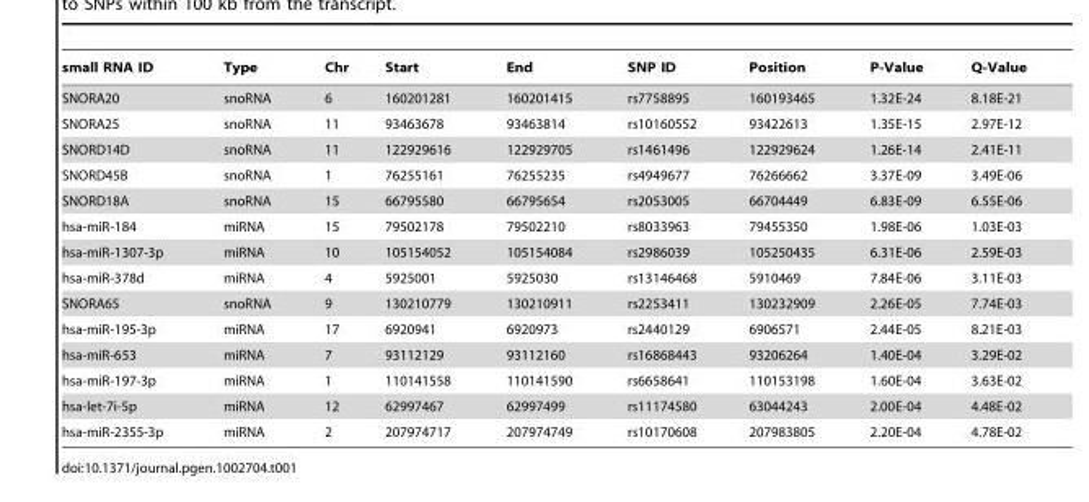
<table><thead><tr><td>small RNA ID</td><td>Type</td><td>Chr</td><td>Start</td><td>End</td><td>SNP ID</td><td>Position</td><td>P-Value</td><td>Q-Value</td></tr></thead><tbody><tr><td>SNORA20</td><td>snoRNA</td><td>6</td><td>160201281</td><td>160201415</td><td>rs7758895</td><td>160193465</td><td>1.32E-24</td><td>8.18E-21</td></tr><tr><td>SNORA25</td><td>snoRNA</td><td>11</td><td>93463678</td><td>93463814</td><td>rs10160552</td><td>93422613</td><td>1.35E-15</td><td>2.97E-12</td></tr><tr><td>SNORD14D</td><td>snoRNA</td><td>11</td><td>122929616</td><td>122929705</td><td>rs1461496</td><td>122929624</td><td>1.26E-14</td><td>2.41E-11</td></tr><tr><td>SNORD45B</td><td>snoRNA</td><td>1</td><td>76255161</td><td>76255235</td><td>rs4949677</td><td>76266662</td><td>3.37E-09</td><td>3.49E-06</td></tr><tr><td>SNORD18A</td><td>snoRNA</td><td>15</td><td>66795580</td><td>66795654</td><td>rs2053005</td><td>66704449</td><td>6.83E-09</td><td>6.55E-06</td></tr><tr><td>hsa-miR-184</td><td>miRNA</td><td>15</td><td>79502178</td><td>79502210</td><td>rs8033963</td><td>79455350</td><td>1.98E-06</td><td>1.03E-03</td></tr><tr><td>hsa-miR-1307-3p</td><td>miRNA</td><td>10</td><td>105154052</td><td>105154084</td><td>rs2986039</td><td>105250435</td><td>6.31E-06</td><td>2.59E-03</td></tr><tr><td>hsa-miR-378d</td><td>miRNA</td><td>4</td><td>5925001</td><td>5925030</td><td>rs13146468</td><td>5910469</td><td>7.84E-06</td><td>3.11E-03</td></tr><tr><td>SNORA65</td><td>snoRNA</td><td>9</td><td>130210779</td><td>130210911</td><td>rs2253411</td><td>130232909</td><td>2.26E-05</td><td>7.74E-03</td></tr><tr><td>hsa-miR-195-3p</td><td>miRNA</td><td>17</td><td>6920941</td><td>6920973</td><td>rs2440129</td><td>6906571</td><td>2.44E-05</td><td>8.21E-03</td></tr><tr><td>hsa-miR-653</td><td>miRNA</td><td>7</td><td>93112129</td><td>93112160</td><td>rs16868443</td><td>93206264</td><td>1.40E-04</td><td>3.29E-02</td></tr><tr><td>hsa-miR-197-3p</td><td>miRNA</td><td>1</td><td>110141558</td><td>110141590</td><td>rs6658641</td><td>110153198</td><td>1.60E-04</td><td>3.63E-02</td></tr><tr><td>hsa-let-7i-5p</td><td>miRNA</td><td>12</td><td>62997467</td><td>62997499</td><td>rs11174580</td><td>63044243</td><td>2.00E-04</td><td>4.48E-02</td></tr><tr><td>hsa-miR-2355-3p</td><td>miRNA</td><td>2</td><td>207974717</td><td>207974749</td><td>rs10170608</td><td>207983805</td><td>2.20E-04</td><td>4.78E-02</td></tr></tbody></table>